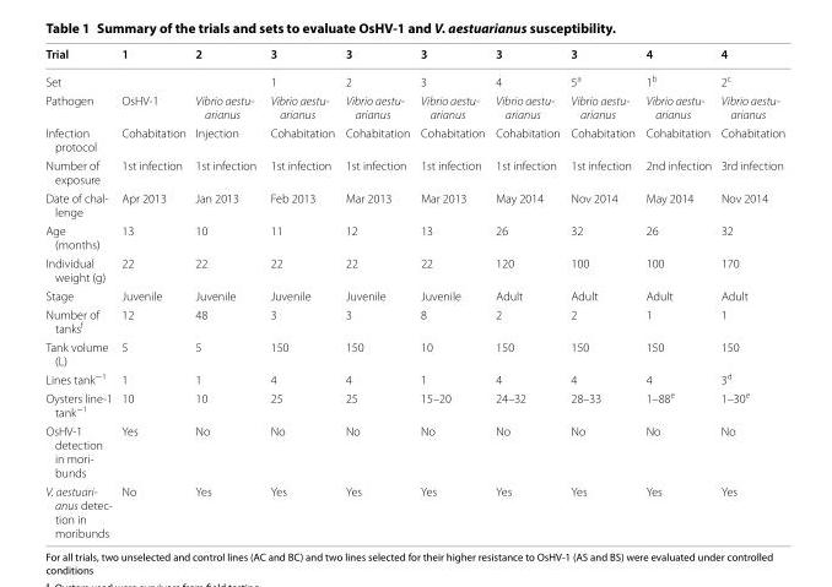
<table><thead><tr><td>Trial</td><td>1</td><td>2</td><td>3</td><td>3</td><td>3</td><td>3</td><td>3</td><td>4</td><td>4</td></tr></thead><tbody><tr><td>Set</td><td></td><td></td><td>1</td><td>2</td><td>3</td><td>4</td><td>5<sup>a</sup></td><td>1<sup>b</sup></td><td>2<sup>c</sup></td></tr><tr><td>Pathogen</td><td>OsHV‑1</td><td>Vibrio aestu- arianus</td><td>Vibrio aestu- arianus</td><td>Vibrio aestu- arianus</td><td>Vibrio aestu- arianus</td><td>Vibrio aestu- arianus</td><td>Vibrio aestu- arianus</td><td>Vibrio aestu- arianus</td><td>Vibrio aestu- arianus</td></tr><tr><td>Infection protocol</td><td>Cohabitation</td><td>Injection</td><td>Cohabitation</td><td>Cohabitation</td><td>Cohabitation</td><td>Cohabitation</td><td>Cohabitation</td><td>Cohabitation</td><td>Cohabitation</td></tr><tr><td>Number of exposure</td><td>1st infection</td><td>1st infection</td><td>1st infection</td><td>1st infection</td><td>1st infection</td><td>1st infection</td><td>1st infection</td><td>2nd infection</td><td>3rd infection</td></tr><tr><td>Date of chal‑ lenge</td><td>Apr 2013</td><td>Jan 2013</td><td>Feb 2013</td><td>Mar 2013</td><td>Mar 2013</td><td>May 2014</td><td>Nov 2014</td><td>May 2014</td><td>Nov 2014</td></tr><tr><td>Age (months)</td><td>13</td><td>10</td><td>11</td><td>12</td><td>13</td><td>26</td><td>32</td><td>26</td><td>32</td></tr><tr><td>Individual weight (g)</td><td>22</td><td>22</td><td>22</td><td>22</td><td>22</td><td>120</td><td>100</td><td>100</td><td>170</td></tr><tr><td>Stage</td><td>Juvenile</td><td>Juvenile</td><td>Juvenile</td><td>Juvenile</td><td>Juvenile</td><td>Adult</td><td>Adult</td><td>Adult</td><td>Adult</td></tr><tr><td>Number of tanks<sup>f</sup></td><td>12</td><td>48</td><td>3</td><td>3</td><td>8</td><td>2</td><td>2</td><td>1</td><td>1</td></tr><tr><td>Tank volume (L)</td><td>5</td><td>5</td><td>150</td><td>150</td><td>10</td><td>150</td><td>150</td><td>150</td><td>150</td></tr><tr><td>Lines tank<sup>−1</sup></td><td>1</td><td>1</td><td>4</td><td>4</td><td>1</td><td>4</td><td>4</td><td>4</td><td>3<sup>d</sup></td></tr><tr><td>Oysters line‑1 tank<sup>−1</sup></td><td>10</td><td>10</td><td>25</td><td>25</td><td>15–20</td><td>24–32</td><td>28–33</td><td>1–88<sup>e</sup></td><td>1–30<sup>e</sup></td></tr><tr><td>OsHV‑1 detection in mori‑ bunds</td><td>Yes</td><td>No</td><td>No</td><td>No</td><td>No</td><td>No</td><td>No</td><td>No</td><td>No</td></tr><tr><td>V. aestuari- anus detec‑ tion in moribunds</td><td>No</td><td>Yes</td><td>Yes</td><td>Yes</td><td>Yes</td><td>Yes</td><td>Yes</td><td>Yes</td><td>Yes</td></tr></tbody></table>